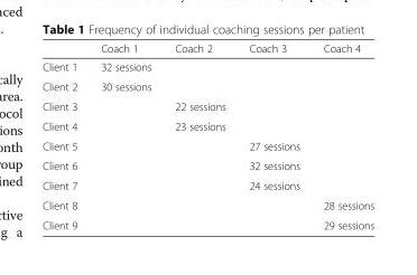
<table><thead><tr><td></td><td>Coach 1</td><td>Coach 2</td><td>Coach 3</td><td>Coach 4</td></tr></thead><tbody><tr><td>Client 1</td><td>32 sessions</td><td></td><td></td><td></td></tr><tr><td>Client 2</td><td>30 sessions</td><td></td><td></td><td></td></tr><tr><td>Client 3</td><td></td><td>22 sessions</td><td></td><td></td></tr><tr><td>Client 4</td><td></td><td>23 sessions</td><td></td><td></td></tr><tr><td>Client 5</td><td></td><td></td><td>27 sessions</td><td></td></tr><tr><td>Client 6</td><td></td><td></td><td>32 sessions</td><td></td></tr><tr><td>Client 7</td><td></td><td></td><td>24 sessions</td><td></td></tr><tr><td>Client 8</td><td></td><td></td><td></td><td>28 sessions</td></tr><tr><td>Client 9</td><td></td><td></td><td></td><td>29 sessions</td></tr></tbody></table>